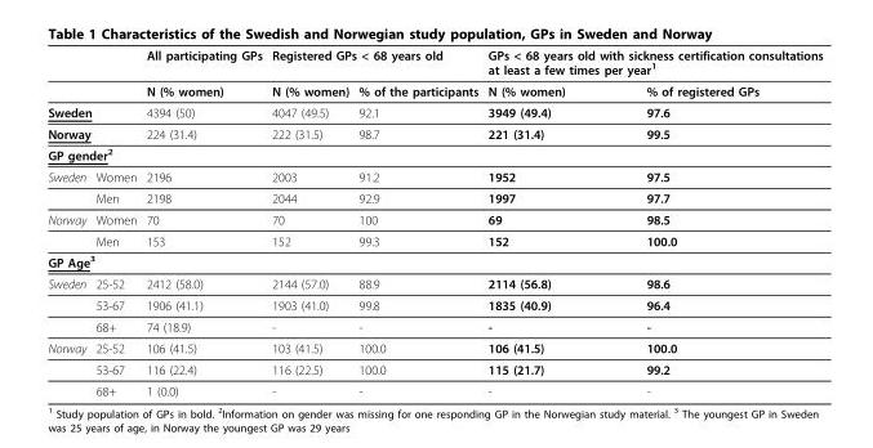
<table><thead><tr><td rowspan="2"></td><td rowspan="2"></td><td rowspan="2">All participating GPs N (% women)</td><td colspan="2">Registered GPs &lt; 68 years old</td><td colspan="2">GPs &lt; 68 years old with sickness certification consultations at least a few times per year1</td></tr><tr><td>N (% women)</td><td>% of the participants</td><td>N (% women)</td><td>% of registered GPs</td></tr></thead><tbody><tr><td colspan="2">Sweden</td><td>4394 (50)</td><td>4047 (49.5)</td><td>92.1</td><td>3949 (49.4)</td><td>97.6</td></tr><tr><td colspan="2">Norway</td><td>224 (31.4)</td><td>222 (31.5)</td><td>98.7</td><td>221 (31.4)</td><td>99.5</td></tr><tr><td colspan="7">GP gender<sup>2</sup></td></tr><tr><td rowspan="2">Sweden</td><td>Women</td><td>2196</td><td>2003</td><td>91.2</td><td>1952</td><td>97.5</td></tr><tr><td>Men</td><td>2198</td><td>2044</td><td>92.9</td><td>1997</td><td>97.7</td></tr><tr><td rowspan="2">Norway</td><td>Women</td><td>70</td><td>70</td><td>100</td><td>69</td><td>98.5</td></tr><tr><td>Men</td><td>153</td><td>152</td><td>99.3</td><td>152</td><td>100.0</td></tr><tr><td colspan="7">GP Age<sup>3</sup></td></tr><tr><td rowspan="3">Sweden</td><td>25-52</td><td>2412 (58.0)</td><td>2144 (57.0)</td><td>88.9</td><td>2114 (56.8)</td><td>98.6</td></tr><tr><td>53-67</td><td>1906 (41.1)</td><td>1903 (41.0)</td><td>99.8</td><td>1835 (40.9)</td><td>96.4</td></tr><tr><td>68+</td><td>74 (18.9)</td><td>-</td><td>-</td><td>-</td><td>-</td></tr><tr><td rowspan="3">Norway</td><td>25-52</td><td>106 (41.5)</td><td>103 (41.5)</td><td>100.0</td><td>106 (41.5)</td><td>100.0</td></tr><tr><td>53-67</td><td>116 (22.4)</td><td>116 (22.5)</td><td>100.0</td><td>115 (21.7)</td><td>99.2</td></tr><tr><td>68+</td><td>1 (0.0)</td><td>-</td><td>-</td><td>-</td><td>-</td></tr></tbody></table>